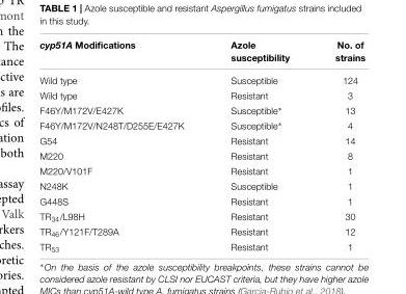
<table><thead><tr><td>cyp51A Modifications</td><td>Azole susceptibility</td><td>No. of strains</td></tr></thead><tbody><tr><td>Wild type</td><td>Susceptible</td><td>124</td></tr><tr><td>Wild type</td><td>Resistant</td><td>3</td></tr><tr><td>F46Y/M172V/E427K</td><td>Susceptible∗</td><td>13</td></tr><tr><td>F46Y/M172V/N248T/D255E/E427K</td><td>Susceptible∗</td><td>4</td></tr><tr><td>G54</td><td>Resistant</td><td>14</td></tr><tr><td>M220</td><td>Resistant</td><td>8</td></tr><tr><td>M220/V101F</td><td>Resistant</td><td>1</td></tr><tr><td>N248K</td><td>Susceptible</td><td>1</td></tr><tr><td>G448S</td><td>Resistant</td><td>1</td></tr><tr><td>TR<sub>34</sub>/L98H</td><td>Resistant</td><td>30</td></tr><tr><td>TR<sub>46</sub>/Y121F/T289A</td><td>Resistant</td><td>12</td></tr><tr><td>TR<sub>53</sub></td><td>Resistant</td><td>1</td></tr></tbody></table>